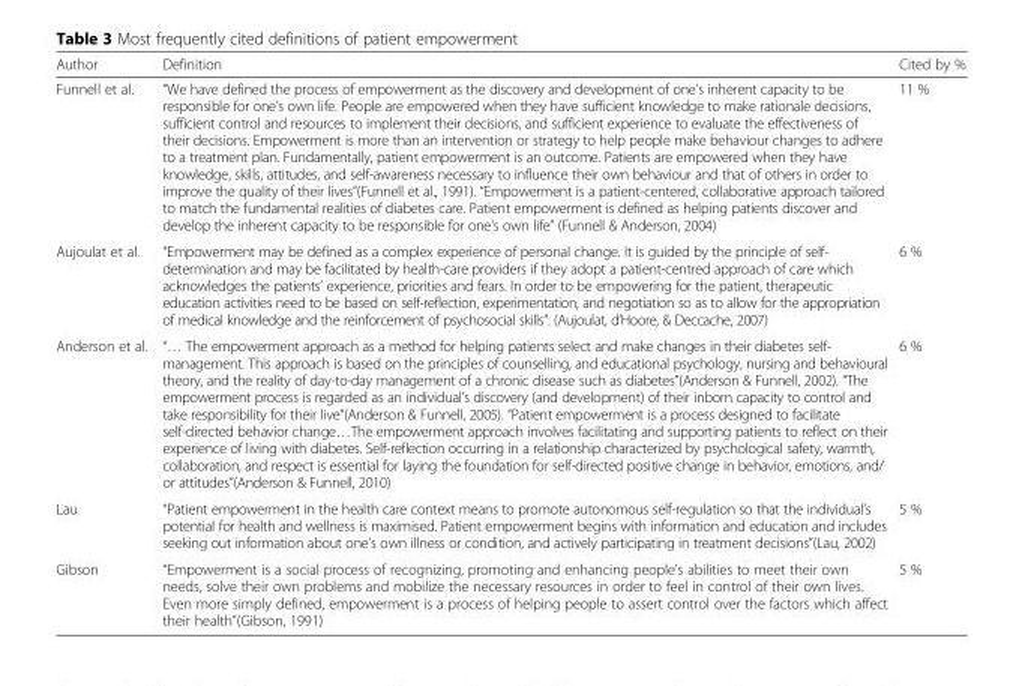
<table><thead><tr><td>Author</td><td>Definition</td><td>Cited by %</td></tr></thead><tbody><tr><td>Funnell et al.</td><td>“We have defined the process of empowerment as the discovery and development of one’s inherent capacity to be responsible for one’s own life. People are empowered when they have sufficient knowledge to make rationale decisions, sufficient control and resources to implement their decisions, and sufficient experience to evaluate the effectiveness of their decisions. Empowerment is more than an intervention or strategy to help people make behaviour changes to adhere to a treatment plan. Fundamentally, patient empowerment is an outcome. Patients are empowered when they have knowledge, skills, attitudes, and self-awareness necessary to influence their own behaviour and that of others in order to improve the quality of their lives”(Funnell et al., 1991). “Empowerment is a patient-centered, collaborative approach tailored to match the fundamental realities of diabetes care. Patient empowerment is defined as helping patients discover and develop the inherent capacity to be responsible for one&#x27;s own life” (Funnell &amp; Anderson, 2004)</td><td>11 %</td></tr><tr><td>Aujoulat et al.</td><td>“Empowerment may be defined as a complex experience of personal change. It is guided by the principle of self- determination and may be facilitated by health-care providers if they adopt a patient-centred approach of care which acknowledges the patients’ experience, priorities and fears. In order to be empowering for the patient, therapeutic education activities need to be based on self-reflection, experimentation, and negotiation so as to allow for the appropriation of medical knowledge and the reinforcement of psychosocial skills”. (Aujoulat, d’Hoore, &amp; Deccache, 2007)</td><td>6 %</td></tr><tr><td>Anderson et al.</td><td>“… The empowerment approach as a method for helping patients select and make changes in their diabetes self- management. This approach is based on the principles of counselling, and educational psychology, nursing and behavioural theory, and the reality of day-to-day management of a chronic disease such as diabetes”(Anderson &amp; Funnell, 2002). “The empowerment process is regarded as an individual’s discovery (and development) of their inborn capacity to control and take responsibility for their live”(Anderson &amp; Funnell, 2005). “Patient empowerment is a process designed to facilitate self-directed behavior change…The empowerment approach involves facilitating and supporting patients to reflect on their experience of living with diabetes. Self-reflection occurring in a relationship characterized by psychological safety, warmth, collaboration, and respect is essential for laying the foundation for self-directed positive change in behavior, emotions, and/ or attitudes”(Anderson &amp; Funnell, 2010)</td><td>6 %</td></tr><tr><td>Lau</td><td>“Patient empowerment in the health care context means to promote autonomous self-regulation so that the individual’s potential for health and wellness is maximised. Patient empowerment begins with information and education and includes seeking out information about one’s own illness or condition, and actively participating in treatment decisions”(Lau, 2002)</td><td>5 %</td></tr><tr><td>Gibson</td><td>“Empowerment is a social process of recognizing, promoting and enhancing people’s abilities to meet their own needs, solve their own problems and mobilize the necessary resources in order to feel in control of their own lives. Even more simply defined, empowerment is a process of helping people to assert control over the factors which affect their health”(Gibson, 1991)</td><td>5 %</td></tr></tbody></table>